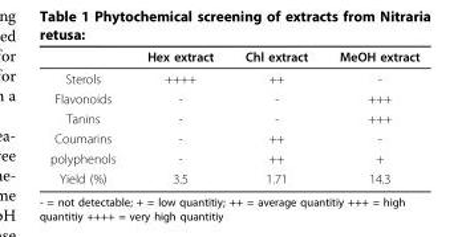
<table><thead><tr><td></td><td>Hex extract</td><td>Chl extract</td><td>MeOH extract</td></tr></thead><tbody><tr><td>Sterols</td><td>++++</td><td>++</td><td>-</td></tr><tr><td>Flavonoids</td><td>-</td><td>-</td><td>+++</td></tr><tr><td>Tanins</td><td>-</td><td>-</td><td>+++</td></tr><tr><td>Coumarins</td><td>-</td><td>++</td><td>-</td></tr><tr><td>polyphenols</td><td>-</td><td>++</td><td>+</td></tr><tr><td>Yield (%)</td><td>3.5</td><td>1.71</td><td>14.3</td></tr></tbody></table>